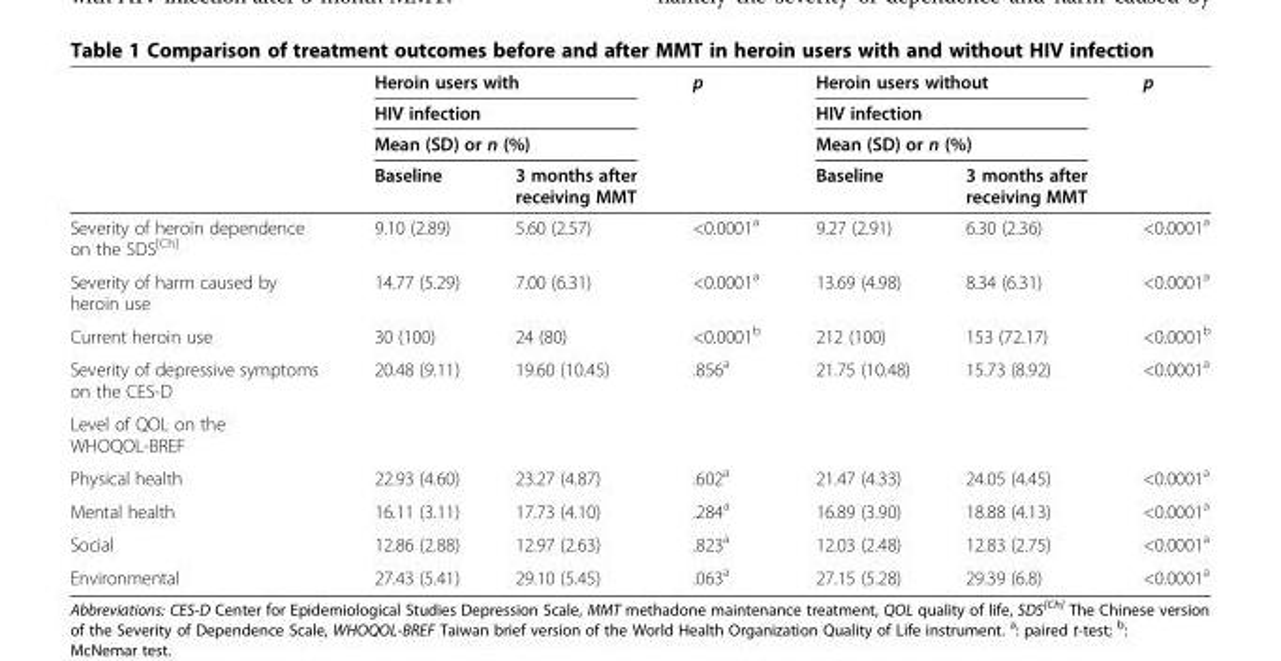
<table><thead><tr><td rowspan="4"></td><td rowspan="3" colspan="2">Heroin users with HIV infection Mean (SD) or n (%)</td><td rowspan="4">p</td><td rowspan="3" colspan="2">Heroin users without HIV infection Mean (SD) or n (%)</td><td rowspan="4">p</td></tr><tr></tr><tr></tr><tr><td>Baseline</td><td>3 months after receiving MMT</td><td>Baseline</td><td>3 months after receiving MMT</td></tr></thead><tbody><tr><td>Severity of heroin dependence on the SDS<sup>[Ch]</sup></td><td>9.10 (2.89)</td><td>5.60 (2.57)</td><td>&lt;0.0001<sup>a</sup></td><td>9.27 (2.91)</td><td>6.30 (2.36)</td><td>&lt;0.0001<sup>a</sup></td></tr><tr><td>Severity of harm caused by heroin use</td><td>14.77 (5.29)</td><td>7.00 (6.31)</td><td>&lt;0.0001<sup>a</sup></td><td>13.69 (4.98)</td><td>8.34 (6.31)</td><td>&lt;0.0001<sup>a</sup></td></tr><tr><td>Current heroin use</td><td>30 (100)</td><td>24 (80)</td><td>&lt;0.0001<sup>b</sup></td><td>212 (100)</td><td>153 (72.17)</td><td>&lt;0.0001<sup>b</sup></td></tr><tr><td>Severity of depressive symptoms on the CES-D</td><td>20.48 (9.11)</td><td>19.60 (10.45)</td><td>.856<sup>a</sup></td><td>21.75 (10.48)</td><td>15.73 (8.92)</td><td>&lt;0.0001<sup>a</sup></td></tr><tr><td colspan="7">Level of QOL on the WHOQOL-BREF</td></tr><tr><td>Physical health</td><td>22.93 (4.60)</td><td>23.27 (4.87)</td><td>.602<sup>a</sup></td><td>21.47 (4.33)</td><td>24.05 (4.45)</td><td>&lt;0.0001<sup>a</sup></td></tr><tr><td>Mental health</td><td>16.11 (3.11)</td><td>17.73 (4.10)</td><td>.284<sup>a</sup></td><td>16.89 (3.90)</td><td>18.88 (4.13)</td><td>&lt;0.0001<sup>a</sup></td></tr><tr><td>Social</td><td>12.86 (2.88)</td><td>12.97 (2.63)</td><td>.823<sup>a</sup></td><td>12.03 (2.48)</td><td>12.83 (2.75)</td><td>&lt;0.0001<sup>a</sup></td></tr><tr><td>Environmental</td><td>27.43 (5.41)</td><td>29.10 (5.45)</td><td>.063<sup>a</sup></td><td>27.15 (5.28)</td><td>29.39 (6.8)</td><td>&lt;0.0001<sup>a</sup></td></tr></tbody></table>